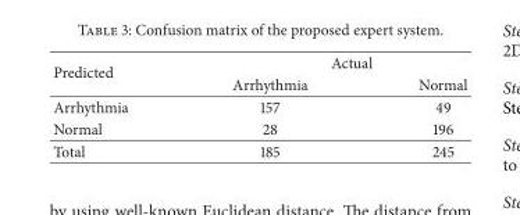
<table><thead><tr><td rowspan="2">Predicted</td><td colspan="2">Actual</td></tr><tr><td>Arrhythmia</td><td>Normal</td></tr></thead><tbody><tr><td>Arrhythmia</td><td>157</td><td>49</td></tr><tr><td>Normal</td><td>28</td><td>196</td></tr><tr><td>Total</td><td>185</td><td>245</td></tr></tbody></table>